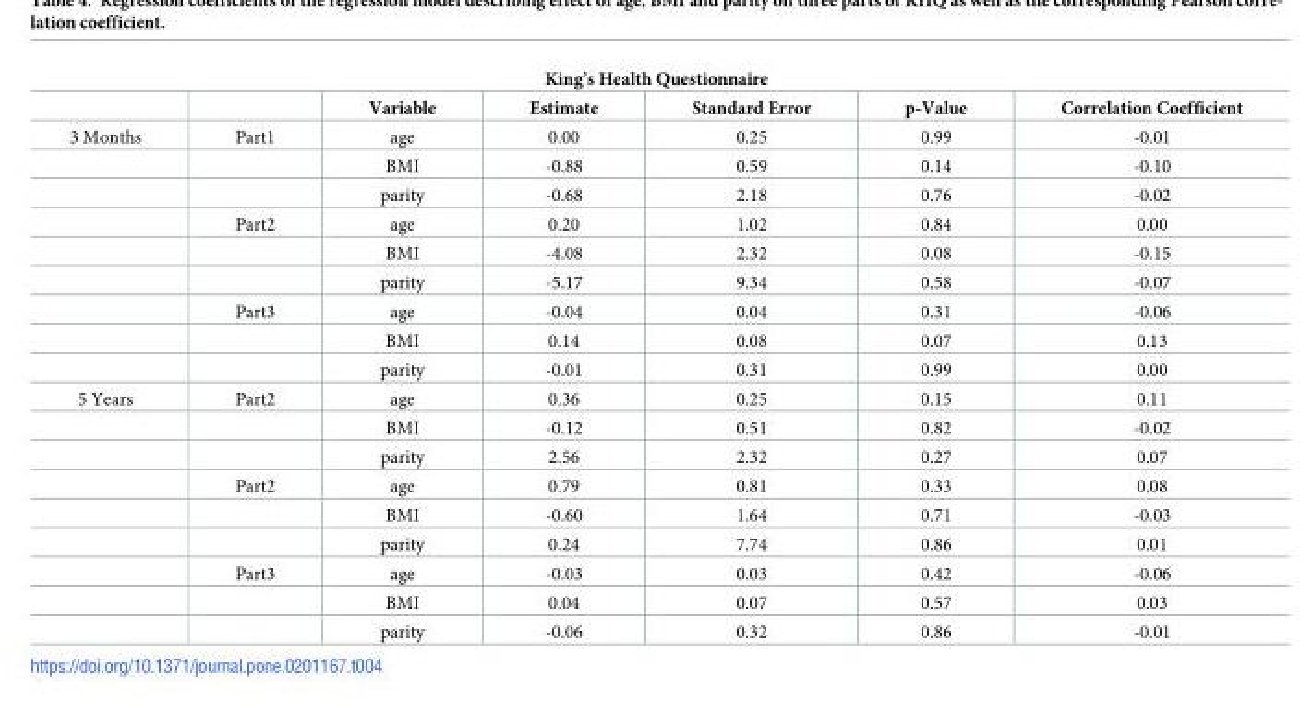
<table><thead><tr><td colspan="7">King’s Health Questionnaire</td></tr><tr><td></td><td></td><td>Variable</td><td>Estimate</td><td>Standard Error</td><td>p-Value</td><td>Correlation Coefficient</td></tr></thead><tbody><tr><td rowspan="9">3 Months</td><td>Part1</td><td>age</td><td>0.00</td><td>0.25</td><td>0.99</td><td>-0.01</td></tr><tr><td></td><td>BMI</td><td>-0.88</td><td>0.59</td><td>0.14</td><td>-0.10</td></tr><tr><td></td><td>parity</td><td>-0.68</td><td>2.18</td><td>0.76</td><td>-0.02</td></tr><tr><td>Part2</td><td>age</td><td>0.20</td><td>1.02</td><td>0.84</td><td>0.00</td></tr><tr><td></td><td>BMI</td><td>-4.08</td><td>2.32</td><td>0.08</td><td>-0.15</td></tr><tr><td></td><td>parity</td><td>-5.17</td><td>9.34</td><td>0.58</td><td>-0.07</td></tr><tr><td>Part3</td><td>age</td><td>-0.04</td><td>0.04</td><td>0.31</td><td>-0.06</td></tr><tr><td></td><td>BMI</td><td>0.14</td><td>0.08</td><td>0.07</td><td>0.13</td></tr><tr><td></td><td>parity</td><td>-0.01</td><td>0.31</td><td>0.99</td><td>0.00</td></tr><tr><td rowspan="9">5 Years</td><td>Part2</td><td>age</td><td>0.36</td><td>0.25</td><td>0.15</td><td>0.11</td></tr><tr><td></td><td>BMI</td><td>-0.12</td><td>0.51</td><td>0.82</td><td>-0.02</td></tr><tr><td></td><td>parity</td><td>2.56</td><td>2.32</td><td>0.27</td><td>0.07</td></tr><tr><td>Part2</td><td>age</td><td>0.79</td><td>0.81</td><td>0.33</td><td>0.08</td></tr><tr><td></td><td>BMI</td><td>-0.60</td><td>1.64</td><td>0.71</td><td>-0.03</td></tr><tr><td></td><td>parity</td><td>0.24</td><td>7.74</td><td>0.86</td><td>0.01</td></tr><tr><td>Part3</td><td>age</td><td>-0.03</td><td>0.03</td><td>0.42</td><td>-0.06</td></tr><tr><td></td><td>BMI</td><td>0.04</td><td>0.07</td><td>0.57</td><td>0.03</td></tr><tr><td></td><td>parity</td><td>-0.06</td><td>0.32</td><td>0.86</td><td>-0.01</td></tr></tbody></table>